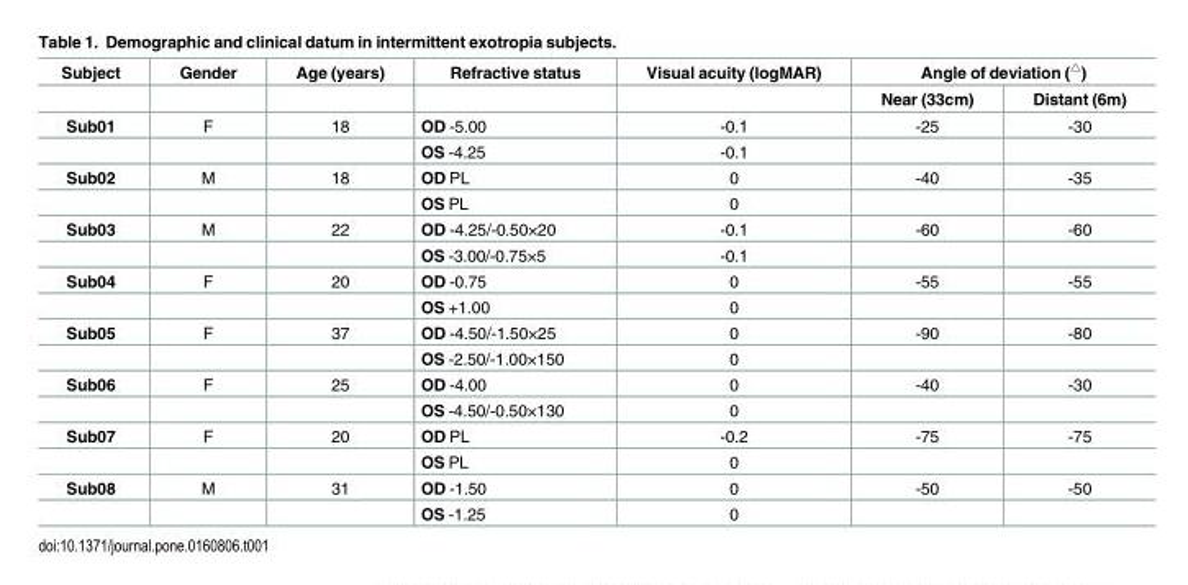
<table><thead><tr><td rowspan="2">Subject</td><td rowspan="2">Gender</td><td rowspan="2">Age (years)</td><td rowspan="2">Refractive status</td><td rowspan="2">Visual acuity (logMAR)</td><td colspan="2">Angle of deviation (<sup>△</sup>)</td></tr><tr><td>Near (33cm)</td><td>Distant (6m)</td></tr></thead><tbody><tr><td rowspan="2">Sub01</td><td>F</td><td>18</td><td>OD -5.00</td><td>-0.1</td><td>-25</td><td>-30</td></tr><tr><td></td><td></td><td>OS -4.25</td><td>-0.1</td><td></td><td></td></tr><tr><td rowspan="2">Sub02</td><td>M</td><td>18</td><td>OD PL</td><td>0</td><td>-40</td><td>-35</td></tr><tr><td></td><td></td><td>OS PL</td><td>0</td><td></td><td></td></tr><tr><td rowspan="2">Sub03</td><td>M</td><td>22</td><td>OD -4.25/-0.50×20</td><td>-0.1</td><td>-60</td><td>-60</td></tr><tr><td></td><td></td><td>OS -3.00/-0.75×5</td><td>-0.1</td><td></td><td></td></tr><tr><td rowspan="2">Sub04</td><td>F</td><td>20</td><td>OD -0.75</td><td>0</td><td>-55</td><td>-55</td></tr><tr><td></td><td></td><td>OS +1.00</td><td>0</td><td></td><td></td></tr><tr><td rowspan="2">Sub05</td><td>F</td><td>37</td><td>OD -4.50/-1.50×25</td><td>0</td><td>-90</td><td>-80</td></tr><tr><td></td><td></td><td>OS -2.50/-1.00×150</td><td>0</td><td></td><td></td></tr><tr><td rowspan="2">Sub06</td><td>F</td><td>25</td><td>OD -4.00</td><td>0</td><td>-40</td><td>-30</td></tr><tr><td></td><td></td><td>OS -4.50/-0.50×130</td><td>0</td><td></td><td></td></tr><tr><td rowspan="2">Sub07</td><td>F</td><td>20</td><td>OD PL</td><td>-0.2</td><td>-75</td><td>-75</td></tr><tr><td></td><td></td><td>OS PL</td><td>0</td><td></td><td></td></tr><tr><td rowspan="2">Sub08</td><td>M</td><td>31</td><td>OD -1.50</td><td>0</td><td>-50</td><td>-50</td></tr><tr><td></td><td></td><td>OS -1.25</td><td>0</td><td></td><td></td></tr></tbody></table>